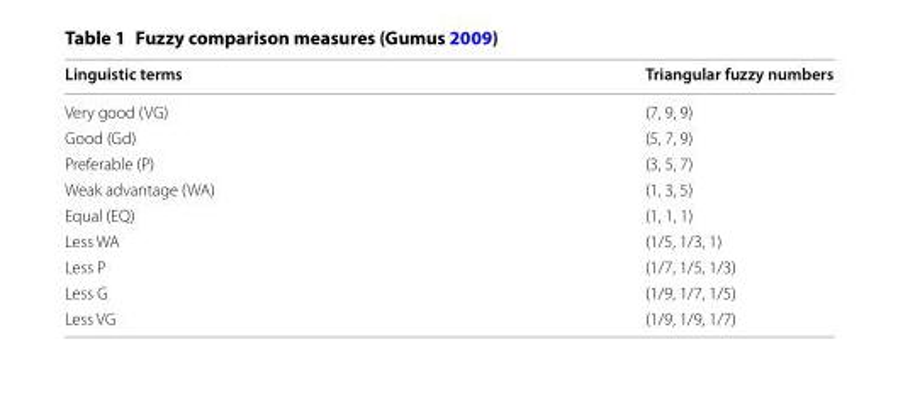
<table><thead><tr><td>Linguistic terms</td><td>Triangular fuzzy numbers</td></tr></thead><tbody><tr><td>Very good (VG)</td><td>(7, 9, 9)</td></tr><tr><td>Good (Gd)</td><td>(5, 7, 9)</td></tr><tr><td>Preferable (P)</td><td>(3, 5, 7)</td></tr><tr><td>Weak advantage (WA)</td><td>(1, 3, 5)</td></tr><tr><td>Equal (EQ)</td><td>(1, 1, 1)</td></tr><tr><td>Less WA</td><td>(1/5, 1/3, 1)</td></tr><tr><td>Less P</td><td>(1/7, 1/5, 1/3)</td></tr><tr><td>Less G</td><td>(1/9, 1/7, 1/5)</td></tr><tr><td>Less VG</td><td>(1/9, 1/9, 1/7)</td></tr></tbody></table>